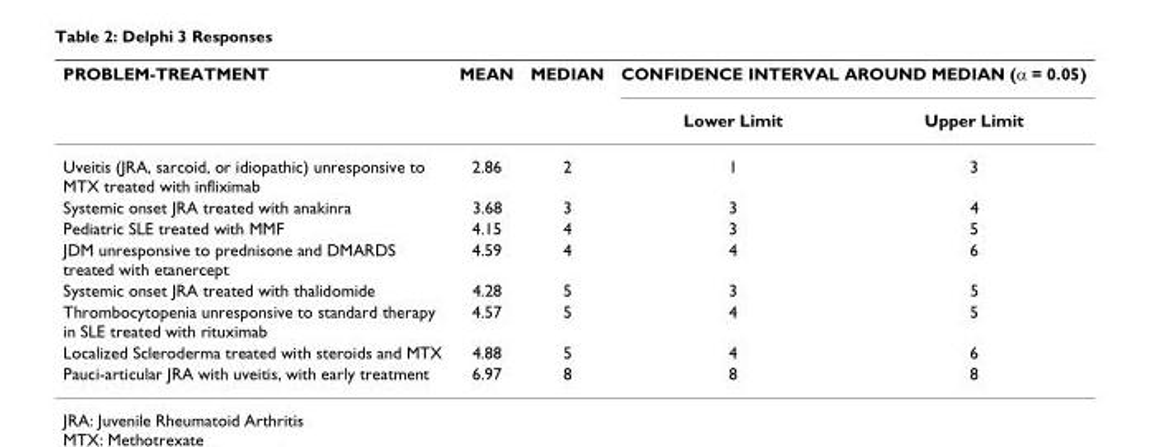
<table><thead><tr><td rowspan="2">PROBLEM-TREATMENT</td><td rowspan="2">MEAN</td><td rowspan="2">MEDIAN</td><td colspan="2">CONFIDENCE INTERVAL AROUND MEDIAN (α = 0.05)</td></tr><tr><td>Lower Limit</td><td>Upper Limit</td></tr></thead><tbody><tr><td>Uveitis (JRA, sarcoid, or idiopathic) unresponsive to MTX treated with infliximab</td><td>2.86</td><td>2</td><td>1</td><td>3</td></tr><tr><td>Systemic onset JRA treated with anakinra</td><td>3.68</td><td>3</td><td>3</td><td>4</td></tr><tr><td>Pediatric SLE treated with MMF</td><td>4.15</td><td>4</td><td>3</td><td>5</td></tr><tr><td>JDM unresponsive to prednisone and DMARDS treated with etanercept</td><td>4.59</td><td>4</td><td>4</td><td>6</td></tr><tr><td>Systemic onset JRA treated with thalidomide</td><td>4.28</td><td>5</td><td>3</td><td>5</td></tr><tr><td>Thrombocytopenia unresponsive to standard therapy in SLE treated with rituximab</td><td>4.57</td><td>5</td><td>4</td><td>5</td></tr><tr><td>Localized Scleroderma treated with steroids and MTX</td><td>4.88</td><td>5</td><td>4</td><td>6</td></tr><tr><td>Pauci-articular JRA with uveitis, with early treatment</td><td>6.97</td><td>8</td><td>8</td><td>8</td></tr></tbody></table>